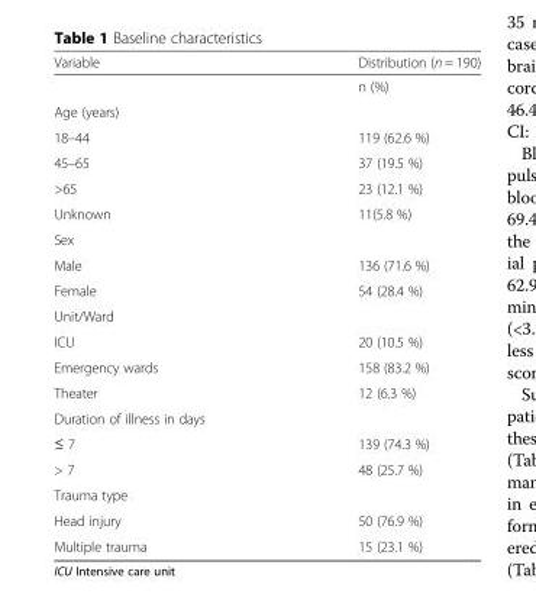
<table><thead><tr><td>Variable</td><td>Distribution (n = 190)</td></tr></thead><tbody><tr><td></td><td>n (%)</td></tr><tr><td colspan="2">Age (years)</td></tr><tr><td>18–44</td><td>119 (62.6 %)</td></tr><tr><td>45–65</td><td>37 (19.5 %)</td></tr><tr><td>&gt;65</td><td>23 (12.1 %)</td></tr><tr><td>Unknown</td><td>11(5.8 %)</td></tr><tr><td colspan="2">Sex</td></tr><tr><td>Male</td><td>136 (71.6 %)</td></tr><tr><td>Female</td><td>54 (28.4 %)</td></tr><tr><td colspan="2">Unit/Ward</td></tr><tr><td>ICU</td><td>20 (10.5 %)</td></tr><tr><td>Emergency wards</td><td>158 (83.2 %)</td></tr><tr><td>Theater</td><td>12 (6.3 %)</td></tr><tr><td colspan="2">Duration of illness in days</td></tr><tr><td>≤ 7</td><td>139 (74.3 %)</td></tr><tr><td>&gt; 7</td><td>48 (25.7 %)</td></tr><tr><td colspan="2">Trauma type</td></tr><tr><td>Head injury</td><td>50 (76.9 %)</td></tr><tr><td>Multiple trauma</td><td>15 (23.1 %)</td></tr></tbody></table>